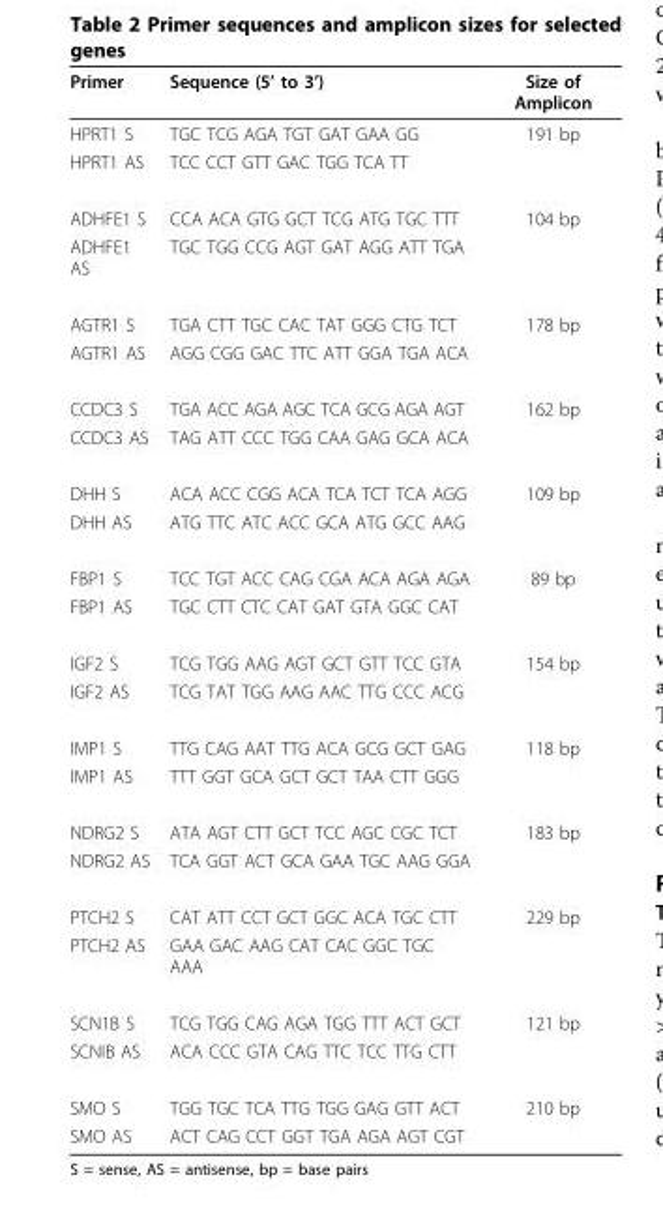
<table><thead><tr><td>Primer</td><td>Sequence (5’ to 3’)</td><td>Size of Amplicon</td></tr></thead><tbody><tr><td>HPRT1 S</td><td>TGC TCG AGA TGT GAT GAA GG</td><td>191 bp</td></tr><tr><td>HPRT1 AS</td><td>TCC CCT GTT GAC TGG TCA TT</td><td></td></tr><tr><td>ADHFE1 S</td><td>CCA ACA GTG GCT TCG ATG TGC TTT</td><td>104 bp</td></tr><tr><td>ADHFE1 AS</td><td>TGC TGG CCG AGT GAT AGG ATT TGA</td><td></td></tr><tr><td>AGTR1 S</td><td>TGA CTT TGC CAC TAT GGG CTG TCT</td><td>178 bp</td></tr><tr><td>AGTR1 AS</td><td>AGG CGG GAC TTC ATT GGA TGA ACA</td><td></td></tr><tr><td>CCDC3 S</td><td>TGA ACC AGA AGC TCA GCG AGA AGT</td><td>162 bp</td></tr><tr><td>CCDC3 AS</td><td>TAG ATT CCC TGG CAA GAG GCA ACA</td><td></td></tr><tr><td>DHH S</td><td>ACA ACC CGG ACA TCA TCT TCA AGG</td><td>109 bp</td></tr><tr><td>DHH AS</td><td>ATG TTC ATC ACC GCA ATG GCC AAG</td><td></td></tr><tr><td>FBP1 S</td><td>TCC TGT ACC CAG CGA ACA AGA AGA</td><td>89 bp</td></tr><tr><td>FBP1 AS</td><td>TGC CTT CTC CAT GAT GTA GGC CAT</td><td></td></tr><tr><td>IGF2 S</td><td>TCG TGG AAG AGT GCT GTT TCC GTA</td><td>154 bp</td></tr><tr><td>IGF2 AS</td><td>TCG TAT TGG AAG AAC TTG CCC ACG</td><td></td></tr><tr><td>IMP1 S</td><td>TTG CAG AAT TTG ACA GCG GCT GAG</td><td>118 bp</td></tr><tr><td>IMP1 AS</td><td>TTT GGT GCA GCT GCT TAA CTT GGG</td><td></td></tr><tr><td>NDRG2 S</td><td>ATA AGT CTT GCT TCC AGC CGC TCT</td><td>183 bp</td></tr><tr><td>NDRG2 AS</td><td>TCA GGT ACT GCA GAA TGC AAG GGA</td><td></td></tr><tr><td>PTCH2 S</td><td>CAT ATT CCT GCT GGC ACA TGC CTT</td><td>229 bp</td></tr><tr><td>PTCH2 AS</td><td>GAA GAC AAG CAT CAC GGC TGC AAA</td><td></td></tr><tr><td>SCN1B S</td><td>TCG TGG CAG AGA TGG TTT ACT GCT</td><td>121 bp</td></tr><tr><td>SCNIB AS</td><td>ACA CCC GTA CAG TTC TCC TTG CTT</td><td></td></tr><tr><td>SMO S</td><td>TGG TGC TCA TTG TGG GAG GTT ACT</td><td>210 bp</td></tr><tr><td>SMO AS</td><td>ACT CAG CCT GGT TGA AGA AGT CGT</td><td></td></tr></tbody></table>